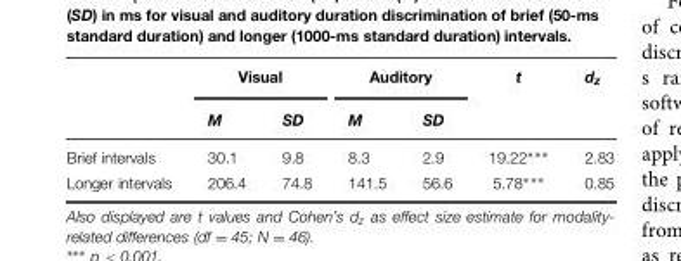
<table><thead><tr><td rowspan="2"></td><td colspan="2">Visual</td><td colspan="2">Auditory</td><td rowspan="2">t</td><td rowspan="2">d<sub>z</sub></td></tr><tr><td>M</td><td>SD</td><td>M</td><td>SD</td></tr></thead><tbody><tr><td>Brief intervals</td><td>30.1</td><td>9.8</td><td>8.3</td><td>2.9</td><td>19.22∗∗∗</td><td>2.83</td></tr><tr><td>Longer intervals</td><td>206.4</td><td>74.8</td><td>141.5</td><td>56.6</td><td>5.78∗∗∗</td><td>0.85</td></tr></tbody></table>